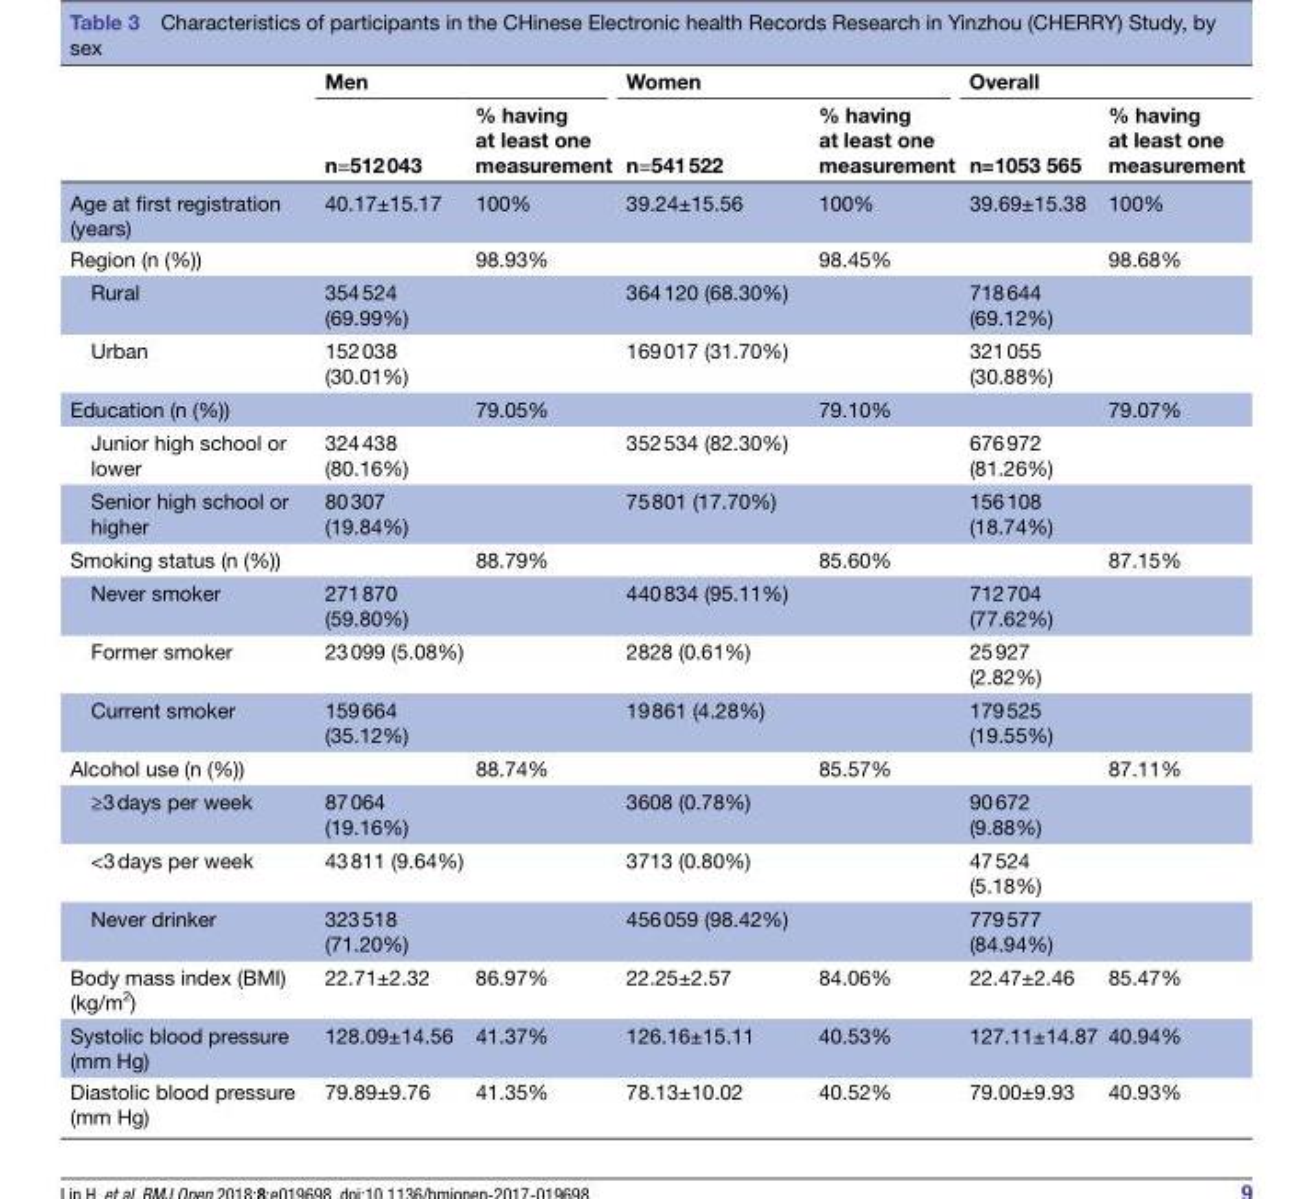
<table><thead><tr><td rowspan="2"></td><td colspan="2">Men</td><td colspan="2">Women</td><td colspan="2">Overall</td></tr><tr><td>n=512 043</td><td>% having at least one measurement</td><td>n=541 522</td><td>% having at least one measurement</td><td>n=1053 565</td><td>% having at least one measurement</td></tr></thead><tbody><tr><td>Age at first registration (years)</td><td>40.17±15.17</td><td>100%</td><td>39.24±15.56</td><td>100%</td><td>39.69±15.38</td><td>100%</td></tr><tr><td>Region (n (%))</td><td></td><td>98.93%</td><td></td><td>98.45%</td><td></td><td>98.68%</td></tr><tr><td>Rural</td><td>354 524 (69.99%)</td><td></td><td>364 120 (68.30%)</td><td></td><td>718 644 (69.12%)</td><td></td></tr><tr><td>Urban</td><td>152 038 (30.01%)</td><td></td><td>169 017 (31.70%)</td><td></td><td>321 055 (30.88%)</td><td></td></tr><tr><td>Education (n (%))</td><td></td><td>79.05%</td><td></td><td>79.10%</td><td></td><td>79.07%</td></tr><tr><td>Junior high school or lower</td><td>324 438 (80.16%)</td><td></td><td>352 534 (82.30%)</td><td></td><td>676 972 (81.26%)</td><td></td></tr><tr><td>Senior high school or higher</td><td>80 307 (19.84%)</td><td></td><td>75 801 (17.70%)</td><td></td><td>156 108 (18.74%)</td><td></td></tr><tr><td>Smoking status (n (%))</td><td></td><td>88.79%</td><td></td><td>85.60%</td><td></td><td>87.15%</td></tr><tr><td>Never smoker</td><td>271 870 (59.80%)</td><td></td><td>440 834 (95.11%)</td><td></td><td>712 704 (77.62%)</td><td></td></tr><tr><td>Former smoker</td><td>23 099 (5.08%)</td><td></td><td>2828 (0.61%)</td><td></td><td>25 927 (2.82%)</td><td></td></tr><tr><td>Current smoker</td><td>159 664 (35.12%)</td><td></td><td>19 861 (4.28%)</td><td></td><td>179 525 (19.55%)</td><td></td></tr><tr><td>Alcohol use (n (%))</td><td></td><td>88.74%</td><td></td><td>85.57%</td><td></td><td>87.11%</td></tr><tr><td>≥3 days per week</td><td>87 064 (19.16%)</td><td></td><td>3608 (0.78%)</td><td></td><td>90 672 (9.88%)</td><td></td></tr><tr><td>&lt;3 days per week</td><td>43 811 (9.64%)</td><td></td><td>3713 (0.80%)</td><td></td><td>47 524 (5.18%)</td><td></td></tr><tr><td>Never drinker</td><td>323 518 (71.20%)</td><td></td><td>456 059 (98.42%)</td><td></td><td>779 577 (84.94%)</td><td></td></tr><tr><td>Body mass index (BMI) (kg/m<sup>2</sup>)</td><td>22.71±2.32</td><td>86.97%</td><td>22.25±2.57</td><td>84.06%</td><td>22.47±2.46</td><td>85.47%</td></tr><tr><td>Systolic blood pressure (mm Hg)</td><td>128.09±14.56</td><td>41.37%</td><td>126.16±15.11</td><td>40.53%</td><td>127.11±14.87</td><td>40.94%</td></tr><tr><td>Diastolic blood pressure (mm Hg)</td><td>79.89±9.76</td><td>41.35%</td><td>78.13±10.02</td><td>40.52%</td><td>79.00±9.93</td><td>40.93%</td></tr></tbody></table>